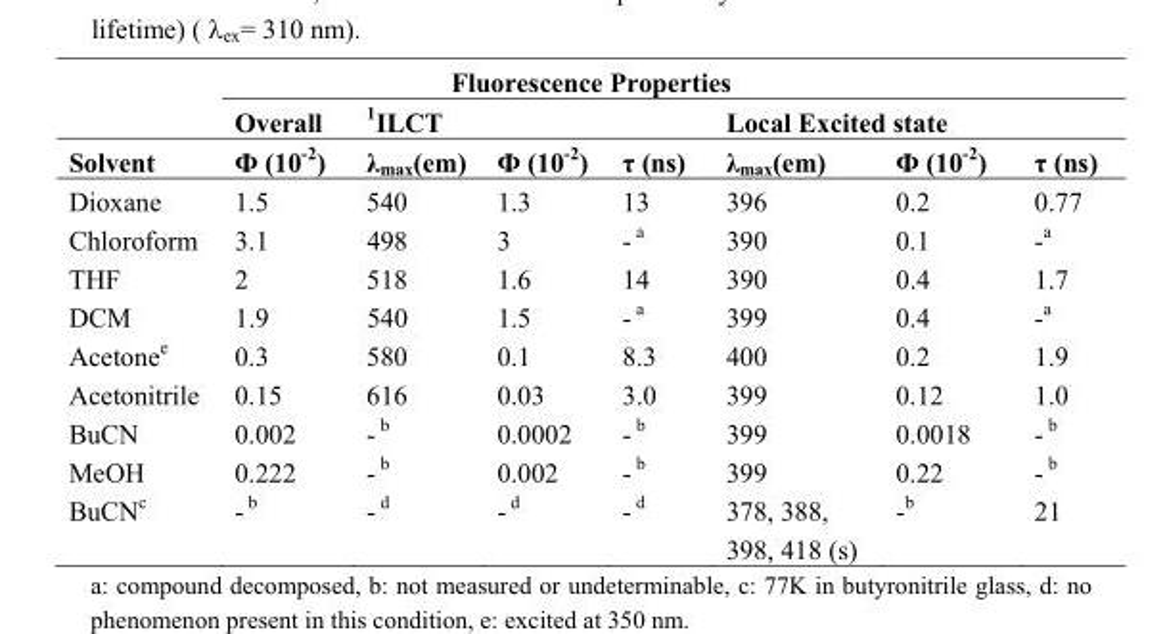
<table><thead><tr><td rowspan="3">Solvent</td><td colspan="7">Fluorescence Properties</td></tr><tr><td rowspan="2">Overall Ф (10-2)</td><td colspan="3">1ILCT</td><td colspan="3">Local Excited state</td></tr><tr><td>λ<sub>max</sub>(em)</td><td>Ф (10-2)</td><td>τ (ns)</td><td>λ<sub>max</sub>(em)</td><td>Ф (10-2)</td><td>τ (ns)</td></tr></thead><tbody><tr><td>Dioxane</td><td>1.5</td><td>540</td><td>1.3</td><td>13</td><td>396</td><td>0.2</td><td>0.77</td></tr><tr><td>Chloroform</td><td>3.1</td><td>498</td><td>3</td><td>- a</td><td>390</td><td>0.1</td><td>-a</td></tr><tr><td>THF</td><td>2</td><td>518</td><td>1.6</td><td>14</td><td>390</td><td>0.4</td><td>1.7</td></tr><tr><td>DCM</td><td>1.9</td><td>540</td><td>1.5</td><td>- a</td><td>399</td><td>0.4</td><td>-a</td></tr><tr><td>Acetone<sup>e</sup></td><td>0.3</td><td>580</td><td>0.1</td><td>8.3</td><td>400</td><td>0.2</td><td>1.9</td></tr><tr><td>Acetonitrile</td><td>0.15</td><td>616</td><td>0.03</td><td>3.0</td><td>399</td><td>0.12</td><td>1.0</td></tr><tr><td>BuCN</td><td>0.002</td><td>- b</td><td>0.0002</td><td>- b</td><td>399</td><td>0.0018</td><td>- b</td></tr><tr><td>MeOH</td><td>0.222</td><td>- b</td><td>0.002</td><td>- b</td><td>399</td><td>0.22</td><td>- b</td></tr><tr><td>BuCN<sup>c</sup></td><td>- b</td><td>- d</td><td>- d</td><td>- d</td><td>378, 388, 398, 418 (s)</td><td>-b</td><td>21</td></tr></tbody></table>